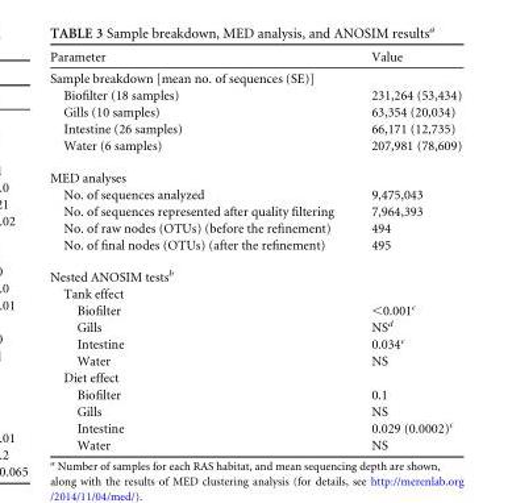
<table><thead><tr><td>Parameter</td><td>Value</td></tr></thead><tbody><tr><td colspan="2">Sample breakdown [mean no. of sequences (SE)]</td></tr><tr><td>Biofilter (18 samples)</td><td>231,264 (53,434)</td></tr><tr><td>Gills (10 samples)</td><td>63,354 (20,034)</td></tr><tr><td>Intestine (26 samples)</td><td>66,171 (12,735)</td></tr><tr><td>Water (6 samples)</td><td>207,981 (78,609)</td></tr><tr><td colspan="2">MED analyses</td></tr><tr><td>No. of sequences analyzed</td><td>9,475,043</td></tr><tr><td>No. of sequences represented after quality filtering</td><td>7,964,393</td></tr><tr><td>No. of raw nodes (OTUs) (before the refinement)</td><td>494</td></tr><tr><td>No. of final nodes (OTUs) (after the refinement)</td><td>495</td></tr><tr><td colspan="2">Nested ANOSIM tests<sup>b</sup></td></tr><tr><td colspan="2">Tank effect</td></tr><tr><td>Biofilter</td><td>&lt;0.001<sup>c</sup></td></tr><tr><td>Gills</td><td>NS<sup>d</sup></td></tr><tr><td>Intestine</td><td>0.034<sup>c</sup></td></tr><tr><td>Water</td><td>NS</td></tr><tr><td colspan="2">Diet effect</td></tr><tr><td>Biofilter</td><td>0.1</td></tr><tr><td>Gills</td><td>NS</td></tr><tr><td>Intestine</td><td>0.029 (0.0002)<sup>c</sup></td></tr><tr><td>Water</td><td>NS</td></tr></tbody></table>